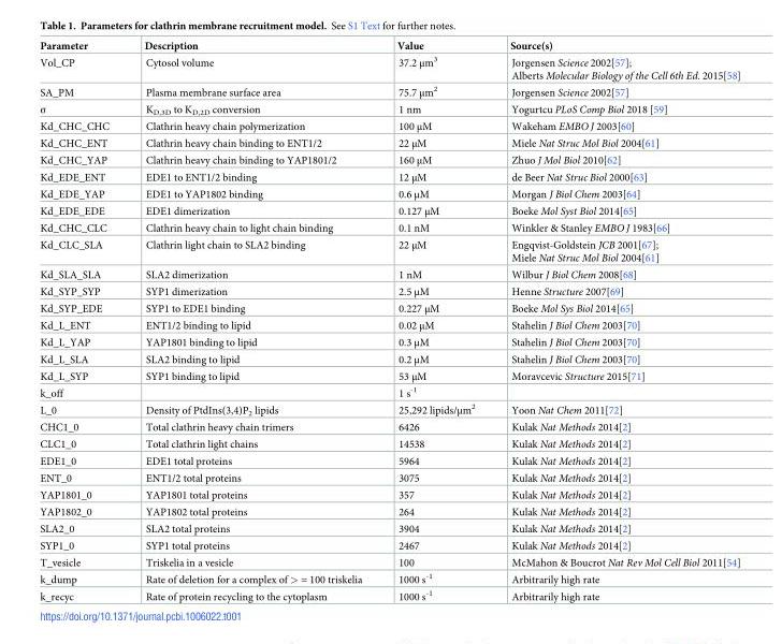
<table><thead><tr><td>Parameter</td><td>Description</td><td>Value</td><td>Source(s)</td></tr></thead><tbody><tr><td>Vol_CP</td><td>Cytosol volume</td><td>37.2 μm<sup>3</sup></td><td>Jorgensen Science 2002[57]; Alberts Molecular Biology of the Cell 6th Ed. 2015[58]</td></tr><tr><td>SA_PM</td><td>Plasma membrane surface area</td><td>75.7 μm<sup>2</sup></td><td>Jorgensen Science 2002[57]</td></tr><tr><td>σ</td><td>K<sub>D,3D</sub> to K<sub>D,2D</sub> conversion</td><td>1 nm</td><td>Yogurtcu PLoS Comp Biol 2018 [59]</td></tr><tr><td>Kd_CHC_CHC</td><td>Clathrin heavy chain polymerization</td><td>100 μM</td><td>Wakeham EMBO J 2003[60]</td></tr><tr><td>Kd_CHC_ENT</td><td>Clathrin heavy chain binding to ENT1/2</td><td>22 μM</td><td>Miele Nat Struc Mol Biol 2004[61]</td></tr><tr><td>Kd_CHC_YAP</td><td>Clathrin heavy chain binding to YAP1801/2</td><td>160 μM</td><td>Zhuo J Mol Biol 2010[62]</td></tr><tr><td>Kd_EDE_ENT</td><td>EDE1 to ENT1/2 binding</td><td>12 μM</td><td>de Beer Nat Struc Biol 2000[63]</td></tr><tr><td>Kd_EDE_YAP</td><td>EDE1 to YAP1802 binding</td><td>0.6 μM</td><td>Morgan J Biol Chem 2003[64]</td></tr><tr><td>Kd_EDE_EDE</td><td>EDE1 dimerization</td><td>0.127 μM</td><td>Boeke Mol Syst Biol 2014[65]</td></tr><tr><td>Kd_CHC_CLC</td><td>Clathrin heavy chain to light chain binding</td><td>0.1 nM</td><td>Winkler &amp; Stanley EMBO J 1983[66]</td></tr><tr><td>Kd_CLC_SLA</td><td>Clathrin light chain to SLA2 binding</td><td>22 μM</td><td>Engqvist-Goldstein JCB 2001[67]; Miele Nat Struc Mol Biol 2004[61]</td></tr><tr><td>Kd_SLA_SLA</td><td>SLA2 dimerization</td><td>1 nM</td><td>Wilbur J Biol Chem 2008[68]</td></tr><tr><td>Kd_SYP_SYP</td><td>SYP1 dimerization</td><td>2.5 μM</td><td>Henne Structure 2007[69]</td></tr><tr><td>Kd_SYP_EDE</td><td>SYP1 to EDE1 binding</td><td>0.227 μM</td><td>Boeke Mol Sys Biol 2014[65]</td></tr><tr><td>Kd_L_ENT</td><td>ENT1/2 binding to lipid</td><td>0.02 μM</td><td>Stahelin J Biol Chem 2003[70]</td></tr><tr><td>Kd_L_YAP</td><td>YAP1801 binding to lipid</td><td>0.3 μM</td><td>Stahelin J Biol Chem 2003[70]</td></tr><tr><td>Kd_L_SLA</td><td>SLA2 binding to lipid</td><td>0.2 μM</td><td>Stahelin J Biol Chem 2003[70]</td></tr><tr><td>Kd_L_SYP</td><td>SYP1 binding to lipid</td><td>53 μM</td><td>Moravcevic Structure 2015[71]</td></tr><tr><td>k_off</td><td></td><td>1 s<sup>-1</sup></td><td></td></tr><tr><td>L_0</td><td>Density of PtdIns(3,4)P<sub>2</sub> lipids</td><td>25,292 lipids/μm<sup>2</sup></td><td>Yoon Nat Chem 2011[72]</td></tr><tr><td>CHC1_0</td><td>Total clathrin heavy chain trimers</td><td>6426</td><td>Kulak Nat Methods 2014[2]</td></tr><tr><td>CLC1_0</td><td>Total clathrin light chains</td><td>14538</td><td>Kulak Nat Methods 2014[2]</td></tr><tr><td>EDE1_0</td><td>EDE1 total proteins</td><td>5964</td><td>Kulak Nat Methods 2014[2]</td></tr><tr><td>ENT_0</td><td>ENT1/2 total proteins</td><td>3075</td><td>Kulak Nat Methods 2014[2]</td></tr><tr><td>YAP1801_0</td><td>YAP1801 total proteins</td><td>357</td><td>Kulak Nat Methods 2014[2]</td></tr><tr><td>YAP1802_0</td><td>YAP1802 total proteins</td><td>264</td><td>Kulak Nat Methods 2014[2]</td></tr><tr><td>SLA2_0</td><td>SLA2 total proteins</td><td>3904</td><td>Kulak Nat Methods 2014[2]</td></tr><tr><td>SYP1_0</td><td>SYP1 total proteins</td><td>2467</td><td>Kulak Nat Methods 2014[2]</td></tr><tr><td>T_vesicle</td><td>Triskelia in a vesicle</td><td>100</td><td>McMahon &amp; Boucrot Nat Rev Mol Cell Biol 2011[54]</td></tr><tr><td>k_dump</td><td>Rate of deletion for a complex of &gt; = 100 triskelia</td><td>1000 s<sup>-1</sup></td><td>Arbitrarily high rate</td></tr><tr><td>k_recyc</td><td>Rate of protein recycling to the cytoplasm</td><td>1000 s<sup>-1</sup></td><td>Arbitrarily high rate</td></tr></tbody></table>